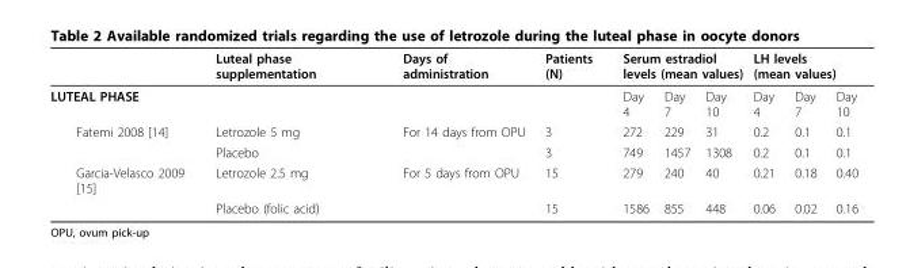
<table><thead><tr><td rowspan="2">LUTEAL PHASE</td><td rowspan="2">Luteal phase supplementation</td><td rowspan="2">Days of administration</td><td rowspan="2">Patients (N)</td><td colspan="3">Serum estradiol levels (mean values)</td><td colspan="3">LH levels (mean values)</td></tr><tr><td>Day 4</td><td>Day 7</td><td>Day 10</td><td>Day 4</td><td>Day 7</td><td>Day 10</td></tr></thead><tbody><tr><td rowspan="2">Fatemi 2008 [14]</td><td>Letrozole 5 mg</td><td>For 14 days from OPU</td><td>3</td><td>272</td><td>229</td><td>31</td><td>0.2</td><td>0.1</td><td>0.1</td></tr><tr><td>Placebo</td><td></td><td>3</td><td>749</td><td>1457</td><td>1308</td><td>0.2</td><td>0.1</td><td>0.1</td></tr><tr><td rowspan="2">Garcia-Velasco 2009 [15]</td><td>Letrozole 2.5 mg</td><td>For 5 days from OPU</td><td>15</td><td>279</td><td>240</td><td>40</td><td>0.21</td><td>0.18</td><td>0.40</td></tr><tr><td>Placebo (folic acid)</td><td></td><td>15</td><td>1586</td><td>855</td><td>448</td><td>0.06</td><td>0.02</td><td>0.16</td></tr></tbody></table>